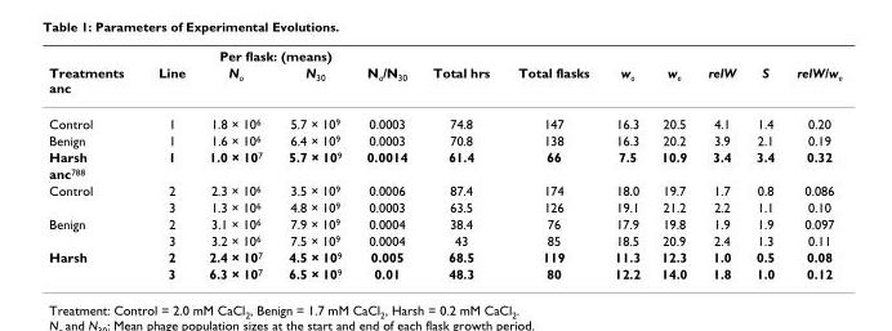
<table><thead><tr><td rowspan="2">Treatments anc</td><td rowspan="2">Line</td><td colspan="2">Per flask: (means)</td><td rowspan="2">N<sub>o</sub>/N<sub>30</sub></td><td rowspan="2">Total hrs</td><td rowspan="2">Total flasks</td><td rowspan="2">w<sub>o</sub></td><td rowspan="2">w<sub>e</sub></td><td rowspan="2">relW</td><td rowspan="2">S</td><td rowspan="2">relW/w<sub>e</sub></td></tr><tr><td>N<sub>o</sub></td><td>N<sub>30</sub></td></tr></thead><tbody><tr><td>Control</td><td>1</td><td>1.8 × 10<sup>6</sup></td><td>5.7 × 10<sup>9</sup></td><td>0.0003</td><td>74.8</td><td>147</td><td>16.3</td><td>20.5</td><td>4.1</td><td>1.4</td><td>0.20</td></tr><tr><td>Benign</td><td>1</td><td>1.6 × 10<sup>6</sup></td><td>6.4 × 10<sup>9</sup></td><td>0.0003</td><td>70.8</td><td>138</td><td>16.3</td><td>20.2</td><td>3.9</td><td>2.1</td><td>0.19</td></tr><tr><td>Harsh</td><td>1</td><td>1.0 × 10<sup>7</sup></td><td>5.7 × 10<sup>9</sup></td><td>0.0014</td><td>61.4</td><td>66</td><td>7.5</td><td>10.9</td><td>3.4</td><td>3.4</td><td>0.32</td></tr><tr><td colspan="12">anc<sup>788</sup></td></tr><tr><td rowspan="2">Control</td><td>2</td><td>2.3 × 10<sup>6</sup></td><td>3.5 × 10<sup>9</sup></td><td>0.0006</td><td>87.4</td><td>174</td><td>18.0</td><td>19.7</td><td>1.7</td><td>0.8</td><td>0.086</td></tr><tr><td>3</td><td>1.3 × 10<sup>6</sup></td><td>4.8 × 10<sup>9</sup></td><td>0.0003</td><td>63.5</td><td>126</td><td>19.1</td><td>21.2</td><td>2.2</td><td>1.1</td><td>0.10</td></tr><tr><td rowspan="2">Benign</td><td>2</td><td>3.1 × 10<sup>6</sup></td><td>7.9 × 10<sup>9</sup></td><td>0.0004</td><td>38.4</td><td>76</td><td>17.9</td><td>19.8</td><td>1.9</td><td>1.9</td><td>0.097</td></tr><tr><td>3</td><td>3.2 × 10<sup>6</sup></td><td>7.5 × 10<sup>9</sup></td><td>0.0004</td><td>43</td><td>85</td><td>18.5</td><td>20.9</td><td>2.4</td><td>1.3</td><td>0.11</td></tr><tr><td rowspan="2">Harsh</td><td>2</td><td>2.4 × 10<sup>7</sup></td><td>4.5 × 10<sup>9</sup></td><td>0.005</td><td>68.5</td><td>119</td><td>11.3</td><td>12.3</td><td>1.0</td><td>0.5</td><td>0.08</td></tr><tr><td>3</td><td>6.3 × 10<sup>7</sup></td><td>6.5 × 10<sup>9</sup></td><td>0.01</td><td>48.3</td><td>80</td><td>12.2</td><td>14.0</td><td>1.8</td><td>1.0</td><td>0.12</td></tr></tbody></table>